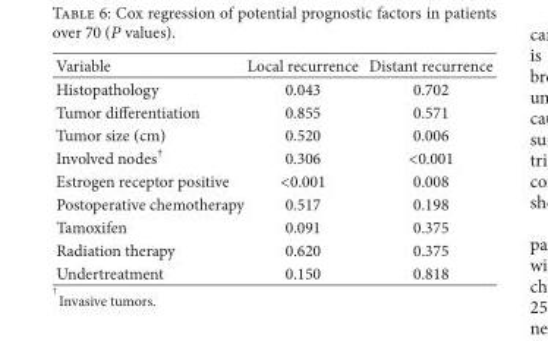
<table><thead><tr><td>Variable</td><td>Local recurrence</td><td>Distant recurrence</td></tr></thead><tbody><tr><td>Histopathology</td><td>0.043</td><td>0.702</td></tr><tr><td>Tumor differentiation</td><td>0.855</td><td>0.571</td></tr><tr><td>Tumor size (cm)</td><td>0.520</td><td>0.006</td></tr><tr><td>Involved nodes<sup>†</sup></td><td>0.306</td><td>&lt;0.001</td></tr><tr><td>Estrogen receptor positive</td><td>&lt;0.001</td><td>0.008</td></tr><tr><td>Postoperative chemotherapy</td><td>0.517</td><td>0.198</td></tr><tr><td>Tamoxifen</td><td>0.091</td><td>0.375</td></tr><tr><td>Radiation therapy</td><td>0.620</td><td>0.375</td></tr><tr><td>Undertreatment</td><td>0.150</td><td>0.818</td></tr></tbody></table>